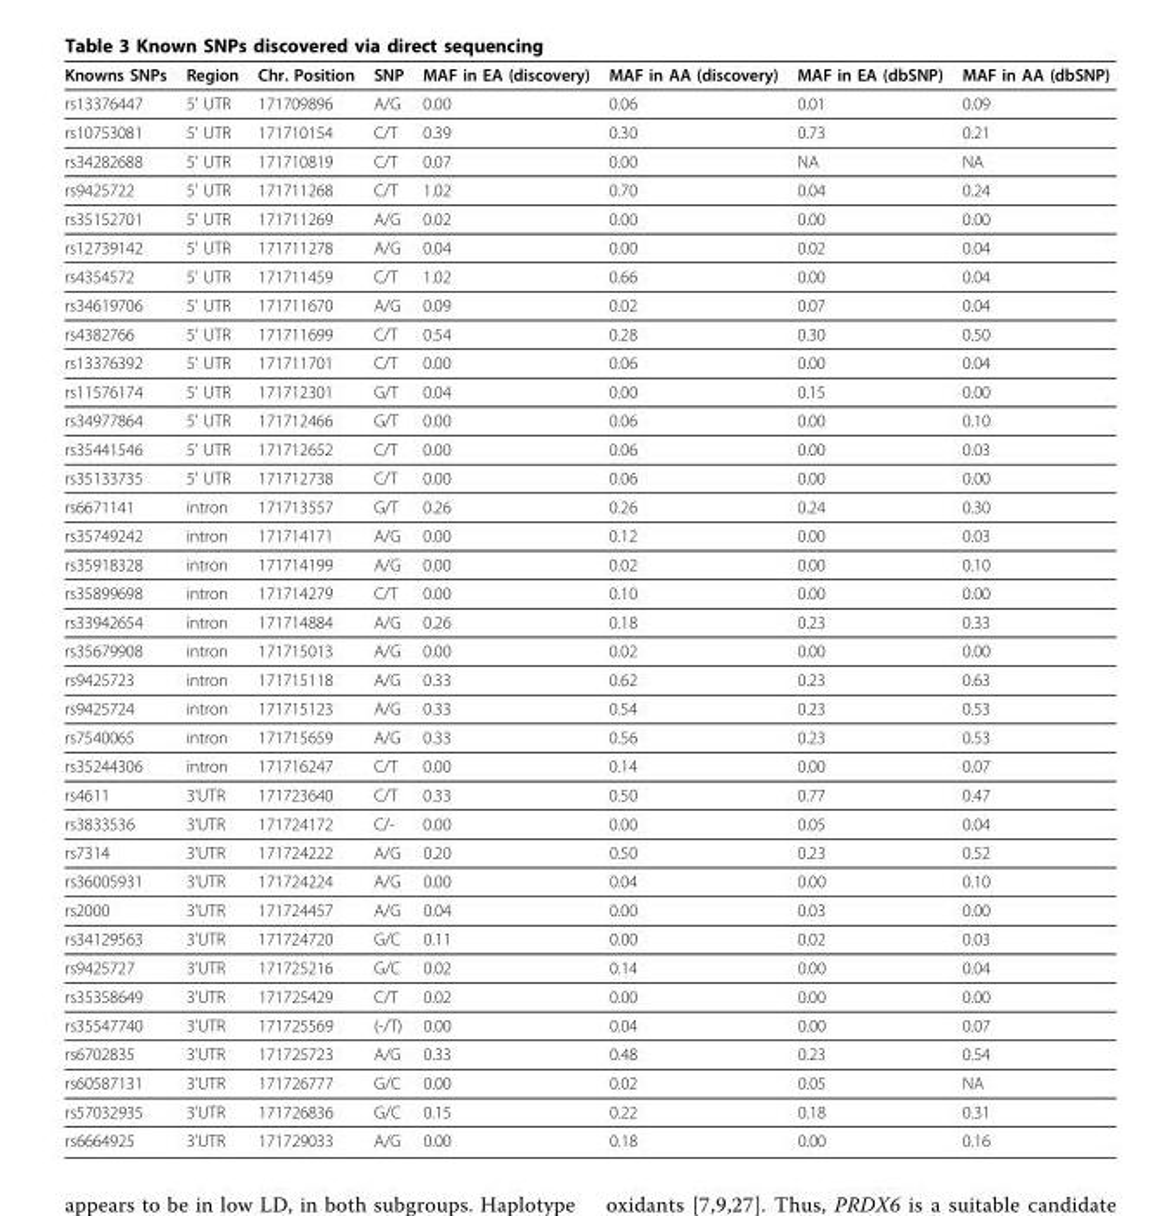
<table><thead><tr><td>Knowns SNPs</td><td>Region</td><td>Chr. Position</td><td>SNP</td><td>MAF in EA (discovery)</td><td>MAF in AA (discovery)</td><td>MAF in EA (dbSNP)</td><td>MAF in AA (dbSNP)</td></tr></thead><tbody><tr><td>rs13376447</td><td>5’ UTR</td><td>171709896</td><td>A/G</td><td>0.00</td><td>0.06</td><td>0.01</td><td>0.09</td></tr><tr><td>rs10753081</td><td>5’ UTR</td><td>171710154</td><td>C/T</td><td>0.39</td><td>0.30</td><td>0.73</td><td>0.21</td></tr><tr><td>rs34282688</td><td>5’ UTR</td><td>171710819</td><td>C/T</td><td>0.07</td><td>0.00</td><td>NA</td><td>NA</td></tr><tr><td>rs9425722</td><td>5’ UTR</td><td>171711268</td><td>C/T</td><td>1.02</td><td>0.70</td><td>0.04</td><td>0.24</td></tr><tr><td>rs35152701</td><td>5’ UTR</td><td>171711269</td><td>A/G</td><td>0.02</td><td>0.00</td><td>0.00</td><td>0.00</td></tr><tr><td>rs12739142</td><td>5’ UTR</td><td>171711278</td><td>A/G</td><td>0.04</td><td>0.00</td><td>0.02</td><td>0.04</td></tr><tr><td>rs4354572</td><td>5’ UTR</td><td>171711459</td><td>C/T</td><td>1.02</td><td>0.66</td><td>0.00</td><td>0.04</td></tr><tr><td>rs34619706</td><td>5’ UTR</td><td>171711670</td><td>A/G</td><td>0.09</td><td>0.02</td><td>0.07</td><td>0.04</td></tr><tr><td>rs4382766</td><td>5’ UTR</td><td>171711699</td><td>C/T</td><td>0.54</td><td>0.28</td><td>0.30</td><td>0.50</td></tr><tr><td>rs13376392</td><td>5’ UTR</td><td>171711701</td><td>C/T</td><td>0.00</td><td>0.06</td><td>0.00</td><td>0.04</td></tr><tr><td>rs11576174</td><td>5’ UTR</td><td>171712301</td><td>G/T</td><td>0.04</td><td>0.00</td><td>0.15</td><td>0.00</td></tr><tr><td>rs34977864</td><td>5’ UTR</td><td>171712466</td><td>G/T</td><td>0.00</td><td>0.06</td><td>0.00</td><td>0.10</td></tr><tr><td>rs35441546</td><td>5’ UTR</td><td>171712652</td><td>C/T</td><td>0.00</td><td>0.06</td><td>0.00</td><td>0.03</td></tr><tr><td>rs35133735</td><td>5’ UTR</td><td>171712738</td><td>C/T</td><td>0.00</td><td>0.06</td><td>0.00</td><td>0.00</td></tr><tr><td>rs6671141</td><td>intron</td><td>171713557</td><td>G/T</td><td>0.26</td><td>0.26</td><td>0.24</td><td>0.30</td></tr><tr><td>rs35749242</td><td>intron</td><td>171714171</td><td>A/G</td><td>0.00</td><td>0.12</td><td>0.00</td><td>0.03</td></tr><tr><td>rs35918328</td><td>intron</td><td>171714199</td><td>A/G</td><td>0.00</td><td>0.02</td><td>0.00</td><td>0.10</td></tr><tr><td>rs35899698</td><td>intron</td><td>171714279</td><td>C/T</td><td>0.00</td><td>0.10</td><td>0.00</td><td>0.00</td></tr><tr><td>rs33942654</td><td>intron</td><td>171714884</td><td>A/G</td><td>0.26</td><td>0.18</td><td>0.23</td><td>0.33</td></tr><tr><td>rs35679908</td><td>intron</td><td>171715013</td><td>A/G</td><td>0.00</td><td>0.02</td><td>0.00</td><td>0.00</td></tr><tr><td>rs9425723</td><td>intron</td><td>171715118</td><td>A/G</td><td>0.33</td><td>0.62</td><td>0.23</td><td>0.63</td></tr><tr><td>rs9425724</td><td>intron</td><td>171715123</td><td>A/G</td><td>0.33</td><td>0.54</td><td>0.23</td><td>0.53</td></tr><tr><td>rs7540065</td><td>intron</td><td>171715659</td><td>A/G</td><td>0.33</td><td>0.56</td><td>0.23</td><td>0.53</td></tr><tr><td>rs35244306</td><td>intron</td><td>171716247</td><td>C/T</td><td>0.00</td><td>0.14</td><td>0.00</td><td>0.07</td></tr><tr><td>rs4611</td><td>3’UTR</td><td>171723640</td><td>C/T</td><td>0.33</td><td>0.50</td><td>0.77</td><td>0.47</td></tr><tr><td>rs3833536</td><td>3’UTR</td><td>171724172</td><td>C/-</td><td>0.00</td><td>0.00</td><td>0.05</td><td>0.04</td></tr><tr><td>rs7314</td><td>3’UTR</td><td>171724222</td><td>A/G</td><td>0.20</td><td>0.50</td><td>0.23</td><td>0.52</td></tr><tr><td>rs36005931</td><td>3’UTR</td><td>171724224</td><td>A/G</td><td>0.00</td><td>0.04</td><td>0.00</td><td>0.10</td></tr><tr><td>rs2000</td><td>3’UTR</td><td>171724457</td><td>A/G</td><td>0.04</td><td>0.00</td><td>0.03</td><td>0.00</td></tr><tr><td>rs34129563</td><td>3’UTR</td><td>171724720</td><td>G/C</td><td>0.11</td><td>0.00</td><td>0.02</td><td>0.03</td></tr><tr><td>rs9425727</td><td>3’UTR</td><td>171725216</td><td>G/C</td><td>0.02</td><td>0.14</td><td>0.00</td><td>0.04</td></tr><tr><td>rs35358649</td><td>3’UTR</td><td>171725429</td><td>C/T</td><td>0.02</td><td>0.00</td><td>0.00</td><td>0.00</td></tr><tr><td>rs35547740</td><td>3’UTR</td><td>171725569</td><td>(-/T)</td><td>0.00</td><td>0.04</td><td>0.00</td><td>0.07</td></tr><tr><td>rs6702835</td><td>3’UTR</td><td>171725723</td><td>A/G</td><td>0.33</td><td>0.48</td><td>0.23</td><td>0.54</td></tr><tr><td>rs60587131</td><td>3’UTR</td><td>171726777</td><td>G/C</td><td>0.00</td><td>0.02</td><td>0.05</td><td>NA</td></tr><tr><td>rs57032935</td><td>3’UTR</td><td>171726836</td><td>G/C</td><td>0.15</td><td>0.22</td><td>0.18</td><td>0.31</td></tr><tr><td>rs6664925</td><td>3’UTR</td><td>171729033</td><td>A/G</td><td>0.00</td><td>0.18</td><td>0.00</td><td>0.16</td></tr></tbody></table>